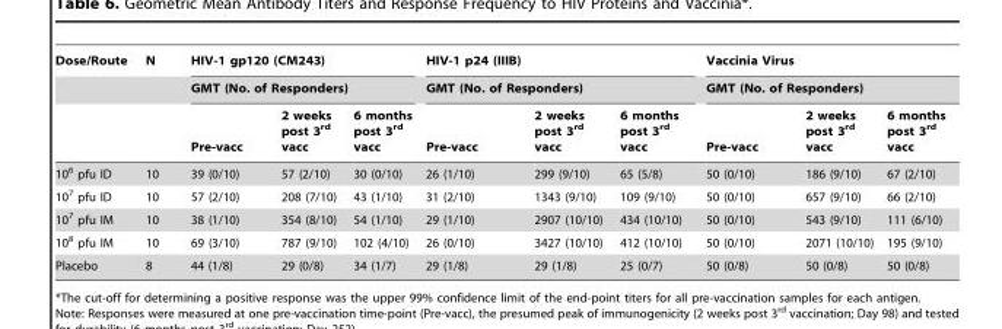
<table><thead><tr><td rowspan="3">Dose/Route</td><td rowspan="3">N</td><td rowspan="2" colspan="3">HIV-1 gp120 (CM243) GMT (No. of Responders)</td><td rowspan="2" colspan="3">HIV-1 p24 (IIIB) GMT (No. of Responders)</td><td rowspan="2" colspan="3">Vaccinia Virus GMT (No. of Responders)</td></tr><tr></tr><tr><td>Pre-vacc</td><td>2 weeks post 3<sup>rd</sup> vacc</td><td>6 months post 3<sup>rd</sup> vacc</td><td>Pre-vacc</td><td>2 weeks post 3<sup>rd</sup> vacc</td><td>6 months post 3<sup>rd</sup> vacc</td><td>Pre-vacc</td><td>2 weeks post 3<sup>rd</sup> vacc</td><td>6 months post 3<sup>rd</sup> vacc</td></tr></thead><tbody><tr><td>10<sup>6</sup> pfu ID</td><td>10</td><td>39 (0/10)</td><td>57 (2/10)</td><td>30 (0/10)</td><td>26 (1/10)</td><td>299 (9/10)</td><td>65 (5/8)</td><td>50 (0/10)</td><td>186 (9/10)</td><td>67 (2/10)</td></tr><tr><td>10<sup>7</sup> pfu ID</td><td>10</td><td>57 (2/10)</td><td>208 (7/10)</td><td>43 (1/10)</td><td>31 (2/10)</td><td>1343 (9/10)</td><td>109 (9/10)</td><td>50 (0/10)</td><td>657 (9/10)</td><td>66 (2/10)</td></tr><tr><td>10<sup>7</sup> pfu IM</td><td>10</td><td>38 (1/10)</td><td>354 (8/10)</td><td>54 (1/10)</td><td>29 (1/10)</td><td>2907 (10/10)</td><td>434 (10/10)</td><td>50 (0/10)</td><td>543 (9/10)</td><td>111 (6/10)</td></tr><tr><td>10<sup>8</sup> pfu IM</td><td>10</td><td>69 (3/10)</td><td>787 (9/10)</td><td>102 (4/10)</td><td>26 (0/10)</td><td>3427 (10/10)</td><td>412 (10/10)</td><td>50 (0/10)</td><td>2071 (10/10)</td><td>195 (9/10)</td></tr><tr><td>Placebo</td><td>8</td><td>44 (1/8)</td><td>29 (0/8)</td><td>34 (1/7)</td><td>29 (1/8)</td><td>29 (1/8)</td><td>25 (0/7)</td><td>50 (0/8)</td><td>50 (0/8)</td><td>50 (0/8)</td></tr></tbody></table>